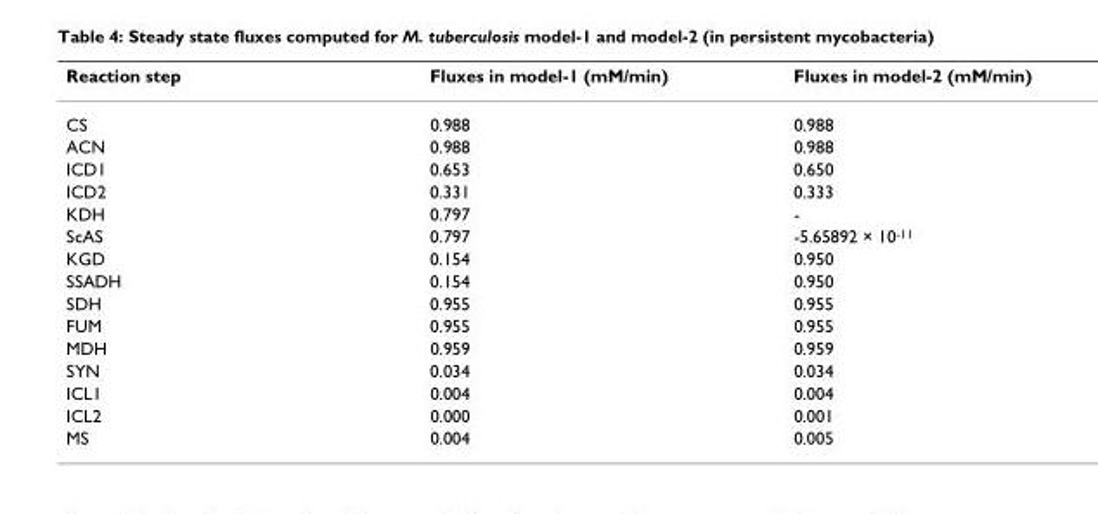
<table><thead><tr><td>Reaction step</td><td>Fluxes in model-1 (mM/min)</td><td>Fluxes in model-2 (mM/min)</td></tr></thead><tbody><tr><td>CS</td><td>0.988</td><td>0.988</td></tr><tr><td>ACN</td><td>0.988</td><td>0.988</td></tr><tr><td>ICD1</td><td>0.653</td><td>0.650</td></tr><tr><td>ICD2</td><td>0.331</td><td>0.333</td></tr><tr><td>KDH</td><td>0.797</td><td>-</td></tr><tr><td>ScAS</td><td>0.797</td><td>-5.65892 × 10<sup>-11</sup></td></tr><tr><td>KGD</td><td>0.154</td><td>0.950</td></tr><tr><td>SSADH</td><td>0.154</td><td>0.950</td></tr><tr><td>SDH</td><td>0.955</td><td>0.955</td></tr><tr><td>FUM</td><td>0.955</td><td>0.955</td></tr><tr><td>MDH</td><td>0.959</td><td>0.959</td></tr><tr><td>SYN</td><td>0.034</td><td>0.034</td></tr><tr><td>ICL1</td><td>0.004</td><td>0.004</td></tr><tr><td>ICL2</td><td>0.000</td><td>0.001</td></tr><tr><td>MS</td><td>0.004</td><td>0.005</td></tr></tbody></table>